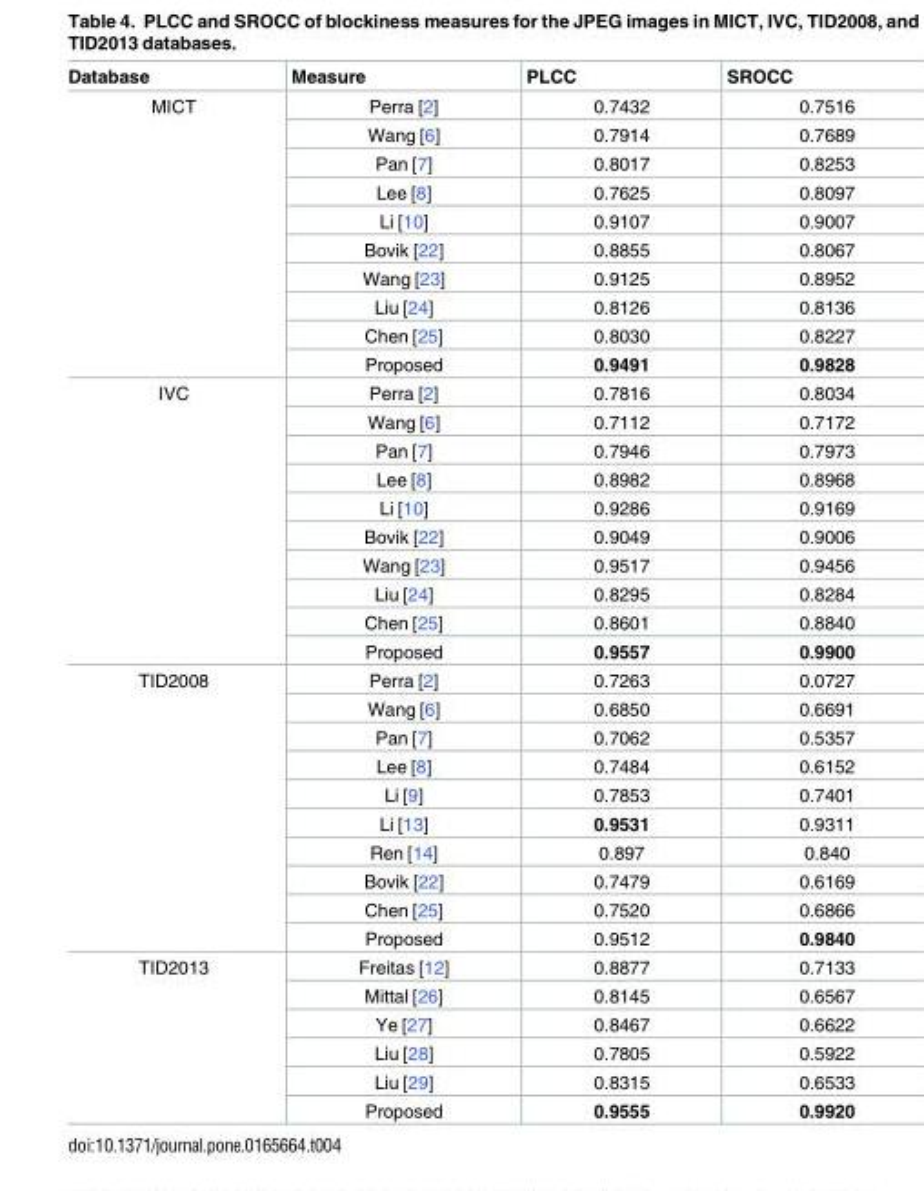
<table><thead><tr><td>Database</td><td>Measure</td><td>PLCC</td><td>SROCC</td></tr></thead><tbody><tr><td rowspan="10">MICT</td><td>Perra [2]</td><td>0.7432</td><td>0.7516</td></tr><tr><td>Wang [6]</td><td>0.7914</td><td>0.7689</td></tr><tr><td>Pan [7]</td><td>0.8017</td><td>0.8253</td></tr><tr><td>Lee [8]</td><td>0.7625</td><td>0.8097</td></tr><tr><td>Li [10]</td><td>0.9107</td><td>0.9007</td></tr><tr><td>Bovik [22]</td><td>0.8855</td><td>0.8067</td></tr><tr><td>Wang [23]</td><td>0.9125</td><td>0.8952</td></tr><tr><td>Liu [24]</td><td>0.8126</td><td>0.8136</td></tr><tr><td>Chen [25]</td><td>0.8030</td><td>0.8227</td></tr><tr><td>Proposed</td><td>0.9491</td><td>0.9828</td></tr><tr><td rowspan="10">IVC</td><td>Perra [2]</td><td>0.7816</td><td>0.8034</td></tr><tr><td>Wang [6]</td><td>0.7112</td><td>0.7172</td></tr><tr><td>Pan [7]</td><td>0.7946</td><td>0.7973</td></tr><tr><td>Lee [8]</td><td>0.8982</td><td>0.8968</td></tr><tr><td>Li [10]</td><td>0.9286</td><td>0.9169</td></tr><tr><td>Bovik [22]</td><td>0.9049</td><td>0.9006</td></tr><tr><td>Wang [23]</td><td>0.9517</td><td>0.9456</td></tr><tr><td>Liu [24]</td><td>0.8295</td><td>0.8284</td></tr><tr><td>Chen [25]</td><td>0.8601</td><td>0.8840</td></tr><tr><td>Proposed</td><td>0.9557</td><td>0.9900</td></tr><tr><td rowspan="10">TID2008</td><td>Perra [2]</td><td>0.7263</td><td>0.0727</td></tr><tr><td>Wang [6]</td><td>0.6850</td><td>0.6691</td></tr><tr><td>Pan [7]</td><td>0.7062</td><td>0.5357</td></tr><tr><td>Lee [8]</td><td>0.7484</td><td>0.6152</td></tr><tr><td>Li [9]</td><td>0.7853</td><td>0.7401</td></tr><tr><td>Li [13]</td><td>0.9531</td><td>0.9311</td></tr><tr><td>Ren [14]</td><td>0.897</td><td>0.840</td></tr><tr><td>Bovik [22]</td><td>0.7479</td><td>0.6169</td></tr><tr><td>Chen [25]</td><td>0.7520</td><td>0.6866</td></tr><tr><td>Proposed</td><td>0.9512</td><td>0.9840</td></tr><tr><td rowspan="6">TID2013</td><td>Freitas [12]</td><td>0.8877</td><td>0.7133</td></tr><tr><td>Mittal [26]</td><td>0.8145</td><td>0.6567</td></tr><tr><td>Ye [27]</td><td>0.8467</td><td>0.6622</td></tr><tr><td>Liu [28]</td><td>0.7805</td><td>0.5922</td></tr><tr><td>Liu [29]</td><td>0.8315</td><td>0.6533</td></tr><tr><td>Proposed</td><td>0.9555</td><td>0.9920</td></tr></tbody></table>